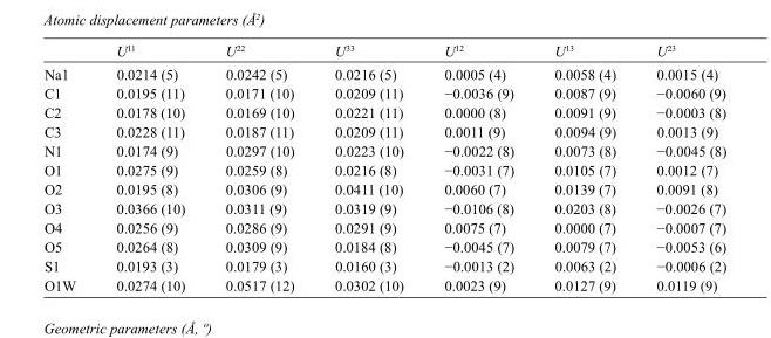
<table><thead><tr><td></td><td>U<sup>11</sup></td><td>U<sup>22</sup></td><td>U<sup>33</sup></td><td>U<sup>12</sup></td><td>U<sup>13</sup></td><td>U<sup>23</sup></td></tr></thead><tbody><tr><td>Na1</td><td>0.0214 (5)</td><td>0.0242 (5)</td><td>0.0216 (5)</td><td>0.0005 (4)</td><td>0.0058 (4)</td><td>0.0015 (4)</td></tr><tr><td>C1</td><td>0.0195 (11)</td><td>0.0171 (10)</td><td>0.0209 (11)</td><td>−0.0036 (9)</td><td>0.0087 (9)</td><td>−0.0060 (9)</td></tr><tr><td>C2</td><td>0.0178 (10)</td><td>0.0169 (10)</td><td>0.0221 (11)</td><td>0.0000 (8)</td><td>0.0091 (9)</td><td>−0.0003 (8)</td></tr><tr><td>C3</td><td>0.0228 (11)</td><td>0.0187 (11)</td><td>0.0209 (11)</td><td>0.0011 (9)</td><td>0.0094 (9)</td><td>0.0013 (9)</td></tr><tr><td>N1</td><td>0.0174 (9)</td><td>0.0297 (10)</td><td>0.0223 (10)</td><td>−0.0022 (8)</td><td>0.0073 (8)</td><td>−0.0045 (8)</td></tr><tr><td>O1</td><td>0.0275 (9)</td><td>0.0259 (8)</td><td>0.0216 (8)</td><td>−0.0031 (7)</td><td>0.0105 (7)</td><td>0.0012 (7)</td></tr><tr><td>O2</td><td>0.0195 (8)</td><td>0.0306 (9)</td><td>0.0411 (10)</td><td>0.0060 (7)</td><td>0.0139 (7)</td><td>0.0091 (8)</td></tr><tr><td>O3</td><td>0.0366 (10)</td><td>0.0311 (9)</td><td>0.0319 (9)</td><td>−0.0106 (8)</td><td>0.0203 (8)</td><td>−0.0026 (7)</td></tr><tr><td>O4</td><td>0.0256 (9)</td><td>0.0286 (9)</td><td>0.0291 (9)</td><td>0.0075 (7)</td><td>0.0000 (7)</td><td>−0.0007 (7)</td></tr><tr><td>O5</td><td>0.0264 (8)</td><td>0.0309 (9)</td><td>0.0184 (8)</td><td>−0.0045 (7)</td><td>0.0079 (7)</td><td>−0.0053 (6)</td></tr><tr><td>S1</td><td>0.0193 (3)</td><td>0.0179 (3)</td><td>0.0160 (3)</td><td>−0.0013 (2)</td><td>0.0063 (2)</td><td>−0.0006 (2)</td></tr><tr><td>O1W</td><td>0.0274 (10)</td><td>0.0517 (12)</td><td>0.0302 (10)</td><td>0.0023 (9)</td><td>0.0127 (9)</td><td>0.0119 (9)</td></tr></tbody></table>